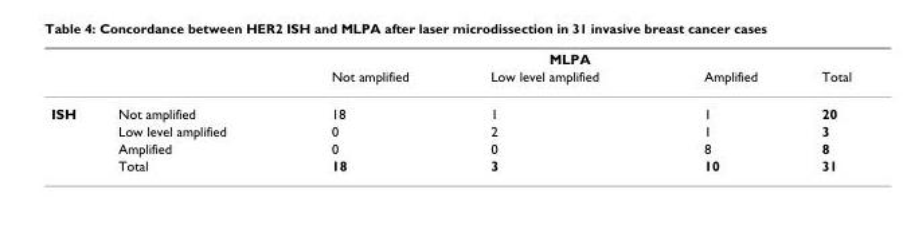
<table><thead><tr><td rowspan="2"></td><td rowspan="2"></td><td colspan="3">MLPA</td><td rowspan="2">Total</td></tr><tr><td>Not amplified</td><td>Low level amplified</td><td>Amplified</td></tr></thead><tbody><tr><td rowspan="4">ISH</td><td>Not amplified</td><td>18</td><td>1</td><td>1</td><td>20</td></tr><tr><td>Low level amplified</td><td>0</td><td>2</td><td>1</td><td>3</td></tr><tr><td>Amplified</td><td>0</td><td>0</td><td>8</td><td>8</td></tr><tr><td>Total</td><td>18</td><td>3</td><td>10</td><td>31</td></tr></tbody></table>